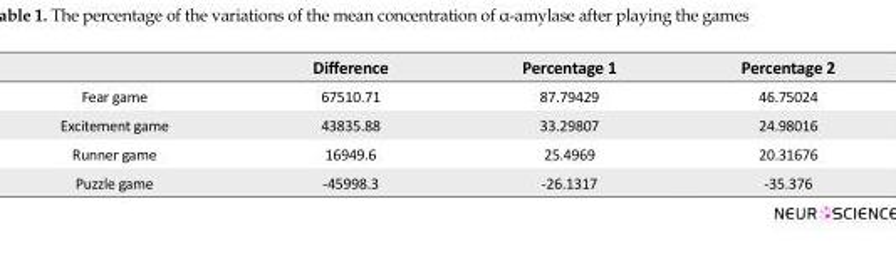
<table><thead><tr><td></td><td>Difference</td><td>Percentage 1</td><td>Percentage 2</td></tr></thead><tbody><tr><td>Fear game</td><td>67510.71</td><td>87.79429</td><td>46.75024</td></tr><tr><td>Excitement game</td><td>43835.88</td><td>33.29807</td><td>24.98016</td></tr><tr><td>Runner game</td><td>16949.6</td><td>25.4969</td><td>20.31676</td></tr><tr><td>Puzzle game</td><td>-45998.3</td><td>-26.1317</td><td>-35.376</td></tr></tbody></table>